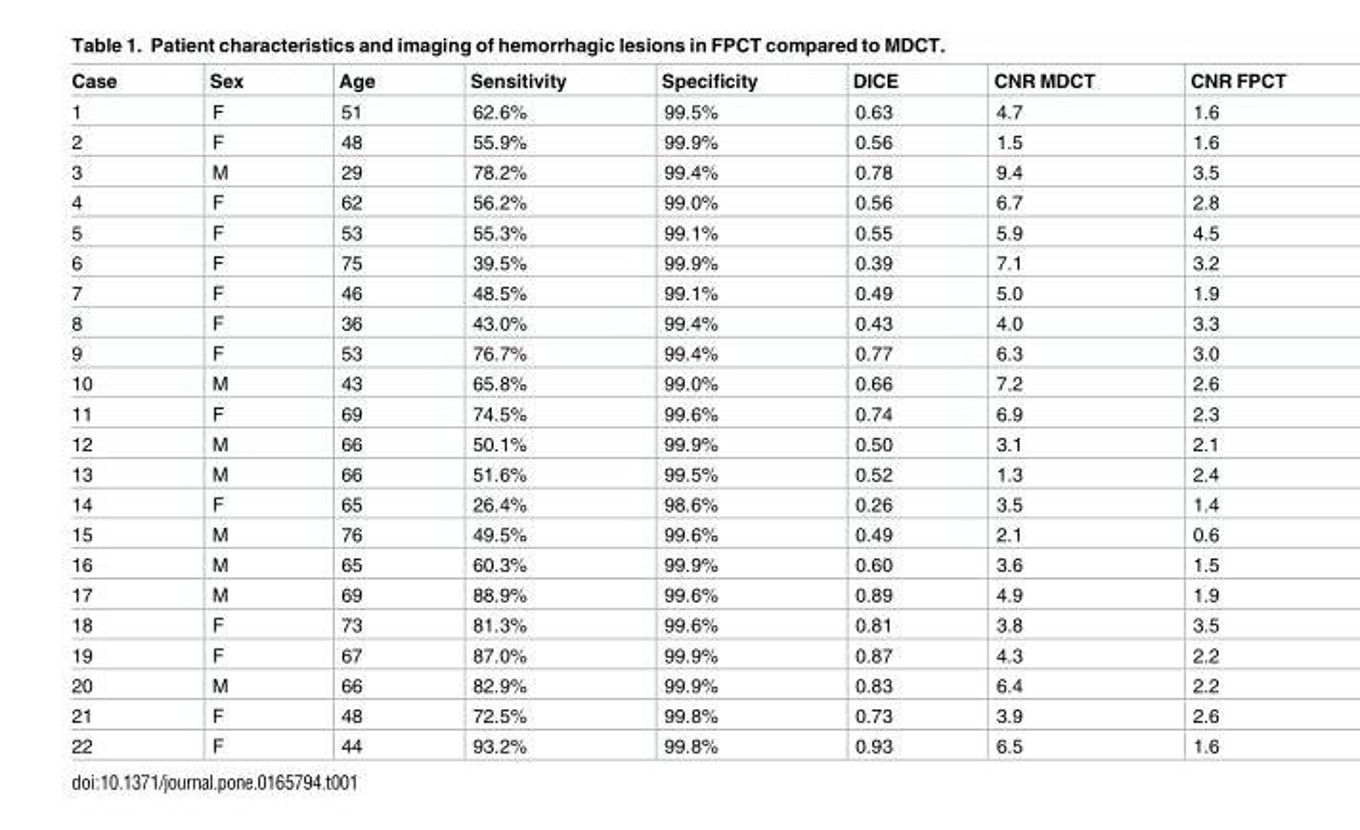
<table><thead><tr><td>Case</td><td>Sex</td><td>Age</td><td>Sensitivity</td><td>Specificity</td><td>DICE</td><td>CNR MDCT</td><td>CNR FPCT</td></tr></thead><tbody><tr><td>1</td><td>F</td><td>51</td><td>62.6%</td><td>99.5%</td><td>0.63</td><td>4.7</td><td>1.6</td></tr><tr><td>2</td><td>F</td><td>48</td><td>55.9%</td><td>99.9%</td><td>0.56</td><td>1.5</td><td>1.6</td></tr><tr><td>3</td><td>M</td><td>29</td><td>78.2%</td><td>99.4%</td><td>0.78</td><td>9.4</td><td>3.5</td></tr><tr><td>4</td><td>F</td><td>62</td><td>56.2%</td><td>99.0%</td><td>0.56</td><td>6.7</td><td>2.8</td></tr><tr><td>5</td><td>F</td><td>53</td><td>55.3%</td><td>99.1%</td><td>0.55</td><td>5.9</td><td>4.5</td></tr><tr><td>6</td><td>F</td><td>75</td><td>39.5%</td><td>99.9%</td><td>0.39</td><td>7.1</td><td>3.2</td></tr><tr><td>7</td><td>F</td><td>46</td><td>48.5%</td><td>99.1%</td><td>0.49</td><td>5.0</td><td>1.9</td></tr><tr><td>8</td><td>F</td><td>36</td><td>43.0%</td><td>99.4%</td><td>0.43</td><td>4.0</td><td>3.3</td></tr><tr><td>9</td><td>F</td><td>53</td><td>76.7%</td><td>99.4%</td><td>0.77</td><td>6.3</td><td>3.0</td></tr><tr><td>10</td><td>M</td><td>43</td><td>65.8%</td><td>99.0%</td><td>0.66</td><td>7.2</td><td>2.6</td></tr><tr><td>11</td><td>F</td><td>69</td><td>74.5%</td><td>99.6%</td><td>0.74</td><td>6.9</td><td>2.3</td></tr><tr><td>12</td><td>M</td><td>66</td><td>50.1%</td><td>99.9%</td><td>0.50</td><td>3.1</td><td>2.1</td></tr><tr><td>13</td><td>M</td><td>66</td><td>51.6%</td><td>99.5%</td><td>0.52</td><td>1.3</td><td>2.4</td></tr><tr><td>14</td><td>F</td><td>65</td><td>26.4%</td><td>98.6%</td><td>0.26</td><td>3.5</td><td>1.4</td></tr><tr><td>15</td><td>M</td><td>76</td><td>49.5%</td><td>99.6%</td><td>0.49</td><td>2.1</td><td>0.6</td></tr><tr><td>16</td><td>M</td><td>65</td><td>60.3%</td><td>99.9%</td><td>0.60</td><td>3.6</td><td>1.5</td></tr><tr><td>17</td><td>M</td><td>69</td><td>88.9%</td><td>99.6%</td><td>0.89</td><td>4.9</td><td>1.9</td></tr><tr><td>18</td><td>F</td><td>73</td><td>81.3%</td><td>99.6%</td><td>0.81</td><td>3.8</td><td>3.5</td></tr><tr><td>19</td><td>F</td><td>67</td><td>87.0%</td><td>99.9%</td><td>0.87</td><td>4.3</td><td>2.2</td></tr><tr><td>20</td><td>M</td><td>66</td><td>82.9%</td><td>99.9%</td><td>0.83</td><td>6.4</td><td>2.2</td></tr><tr><td>21</td><td>F</td><td>48</td><td>72.5%</td><td>99.8%</td><td>0.73</td><td>3.9</td><td>2.6</td></tr><tr><td>22</td><td>F</td><td>44</td><td>93.2%</td><td>99.8%</td><td>0.93</td><td>6.5</td><td>1.6</td></tr></tbody></table>